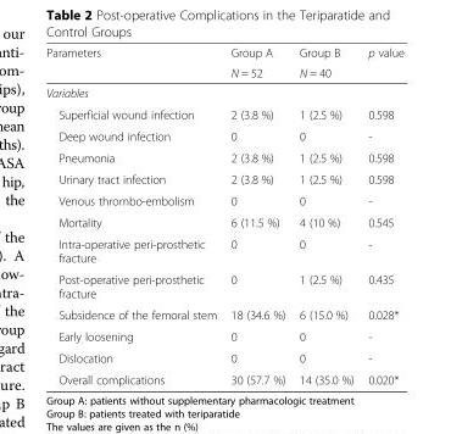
<table><thead><tr><td rowspan="2">Parameters</td><td rowspan="2">Group A N = 52</td><td rowspan="2">Group B N = 40</td><td rowspan="2">p value</td></tr><tr></tr></thead><tbody><tr><td colspan="4">Variables</td></tr><tr><td>Superficial wound infection</td><td>2 (3.8 %)</td><td>1 (2.5 %)</td><td>0.598</td></tr><tr><td>Deep wound infection</td><td>0</td><td>0</td><td>-</td></tr><tr><td>Pneumonia</td><td>2 (3.8 %)</td><td>1 (2.5 %)</td><td>0.598</td></tr><tr><td>Urinary tract infection</td><td>2 (3.8 %)</td><td>1 (2.5 %)</td><td>0.598</td></tr><tr><td>Venous thrombo-embolism</td><td>0</td><td>0</td><td>-</td></tr><tr><td>Mortality</td><td>6 (11.5 %)</td><td>4 (10 %)</td><td>0.545</td></tr><tr><td>Intra-operative peri-prosthetic fracture</td><td>0</td><td>0</td><td>-</td></tr><tr><td>Post-operative peri-prosthetic fracture</td><td>0</td><td>1 (2.5 %)</td><td>0.435</td></tr><tr><td>Subsidence of the femoral stem</td><td>18 (34.6 %)</td><td>6 (15.0 %)</td><td>0.028*</td></tr><tr><td>Early loosening</td><td>0</td><td>0</td><td>-</td></tr><tr><td>Dislocation</td><td>0</td><td>0</td><td>-</td></tr><tr><td>Overall complications</td><td>30 (57.7 %)</td><td>14 (35.0 %)</td><td>0.020*</td></tr></tbody></table>